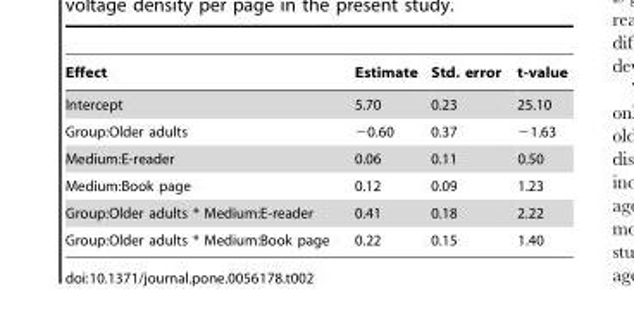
<table><thead><tr><td>Effect</td><td>Estimate</td><td>Std. error</td><td>t-value</td></tr></thead><tbody><tr><td>Intercept</td><td>5.70</td><td>0.23</td><td>25.10</td></tr><tr><td>Group:Older adults</td><td>−0.60</td><td>0.37</td><td>−1.63</td></tr><tr><td>Medium:E-reader</td><td>0.06</td><td>0.11</td><td>0.50</td></tr><tr><td>Medium:Book page</td><td>0.12</td><td>0.09</td><td>1.23</td></tr><tr><td>Group:Older adults * Medium:E-reader</td><td>0.41</td><td>0.18</td><td>2.22</td></tr><tr><td>Group:Older adults * Medium:Book page</td><td>0.22</td><td>0.15</td><td>1.40</td></tr></tbody></table>